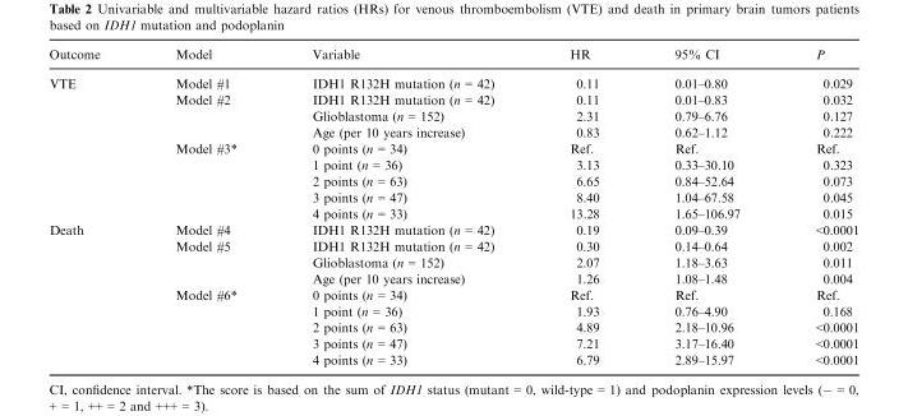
<table><thead><tr><td>Outcome</td><td>Model</td><td>Variable</td><td>HR</td><td>95% CI</td><td>P</td></tr></thead><tbody><tr><td rowspan="9">VTE</td><td>Model #1</td><td>IDH1 R132H mutation (n = 42)</td><td>0.11</td><td>0.01–0.80</td><td>0.029</td></tr><tr><td rowspan="3">Model #2</td><td>IDH1 R132H mutation (n = 42)</td><td>0.11</td><td>0.01–0.83</td><td>0.032</td></tr><tr><td>Glioblastoma (n = 152)</td><td>2.31</td><td>0.79–6.76</td><td>0.127</td></tr><tr><td>Age (per 10 years increase)</td><td>0.83</td><td>0.62–1.12</td><td>0.222</td></tr><tr><td rowspan="5">Model #3*</td><td>0 points (n = 34)</td><td>Ref.</td><td>Ref.</td><td>Ref.</td></tr><tr><td>1 point (n = 36)</td><td>3.13</td><td>0.33–30.10</td><td>0.323</td></tr><tr><td>2 points (n = 63)</td><td>6.65</td><td>0.84–52.64</td><td>0.073</td></tr><tr><td>3 points (n = 47)</td><td>8.40</td><td>1.04–67.58</td><td>0.045</td></tr><tr><td>4 points (n = 33)</td><td>13.28</td><td>1.65–106.97</td><td>0.015</td></tr><tr><td rowspan="9">Death</td><td>Model #4</td><td>IDH1 R132H mutation (n = 42)</td><td>0.19</td><td>0.09–0.39</td><td>&lt;0.0001</td></tr><tr><td rowspan="3">Model #5</td><td>IDH1 R132H mutation (n = 42)</td><td>0.30</td><td>0.14–0.64</td><td>0.002</td></tr><tr><td>Glioblastoma (n = 152)</td><td>2.07</td><td>1.18–3.63</td><td>0.011</td></tr><tr><td>Age (per 10 years increase)</td><td>1.26</td><td>1.08–1.48</td><td>0.004</td></tr><tr><td rowspan="5">Model #6*</td><td>0 points (n = 34)</td><td>Ref.</td><td>Ref.</td><td>Ref.</td></tr><tr><td>1 point (n = 36)</td><td>1.93</td><td>0.76–4.90</td><td>0.168</td></tr><tr><td>2 points (n = 63)</td><td>4.89</td><td>2.18–10.96</td><td>&lt;0.0001</td></tr><tr><td>3 points (n = 47)</td><td>7.21</td><td>3.17–16.40</td><td>&lt;0.0001</td></tr><tr><td>4 points (n = 33)</td><td>6.79</td><td>2.89–15.97</td><td>&lt;0.0001</td></tr></tbody></table>